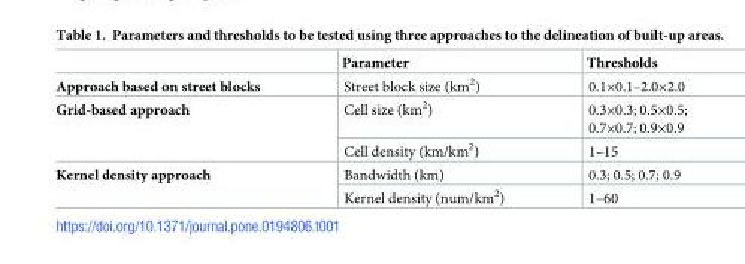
<table><thead><tr><td></td><td>Parameter</td><td>Thresholds</td></tr></thead><tbody><tr><td>Approach based on street blocks</td><td>Street block size (km<sup>2</sup>)</td><td>0.1×0.1–2.0×2.0</td></tr><tr><td rowspan="2">Grid-based approach</td><td>Cell size (km<sup>2</sup>)</td><td>0.3×0.3; 0.5×0.5; 0.7×0.7; 0.9×0.9</td></tr><tr><td>Cell density (km/km<sup>2</sup>)</td><td>1–15</td></tr><tr><td rowspan="2">Kernel density approach</td><td>Bandwidth (km)</td><td>0.3; 0.5; 0.7; 0.9</td></tr><tr><td>Kernel density (num/km<sup>2</sup>)</td><td>1–60</td></tr></tbody></table>